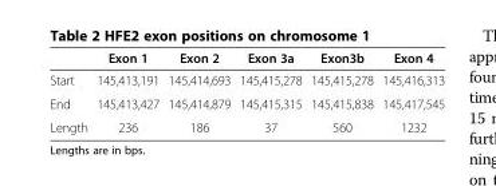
<table><thead><tr><td></td><td>Exon 1</td><td>Exon 2</td><td>Exon 3a</td><td>Exon3b</td><td>Exon 4</td></tr></thead><tbody><tr><td>Start</td><td>145,413,191</td><td>145,414,693</td><td>145,415,278</td><td>145,415,278</td><td>145,416,313</td></tr><tr><td>End</td><td>145,413,427</td><td>145,414,879</td><td>145,415,315</td><td>145,415,838</td><td>145,417,545</td></tr><tr><td>Length</td><td>236</td><td>186</td><td>37</td><td>560</td><td>1232</td></tr></tbody></table>